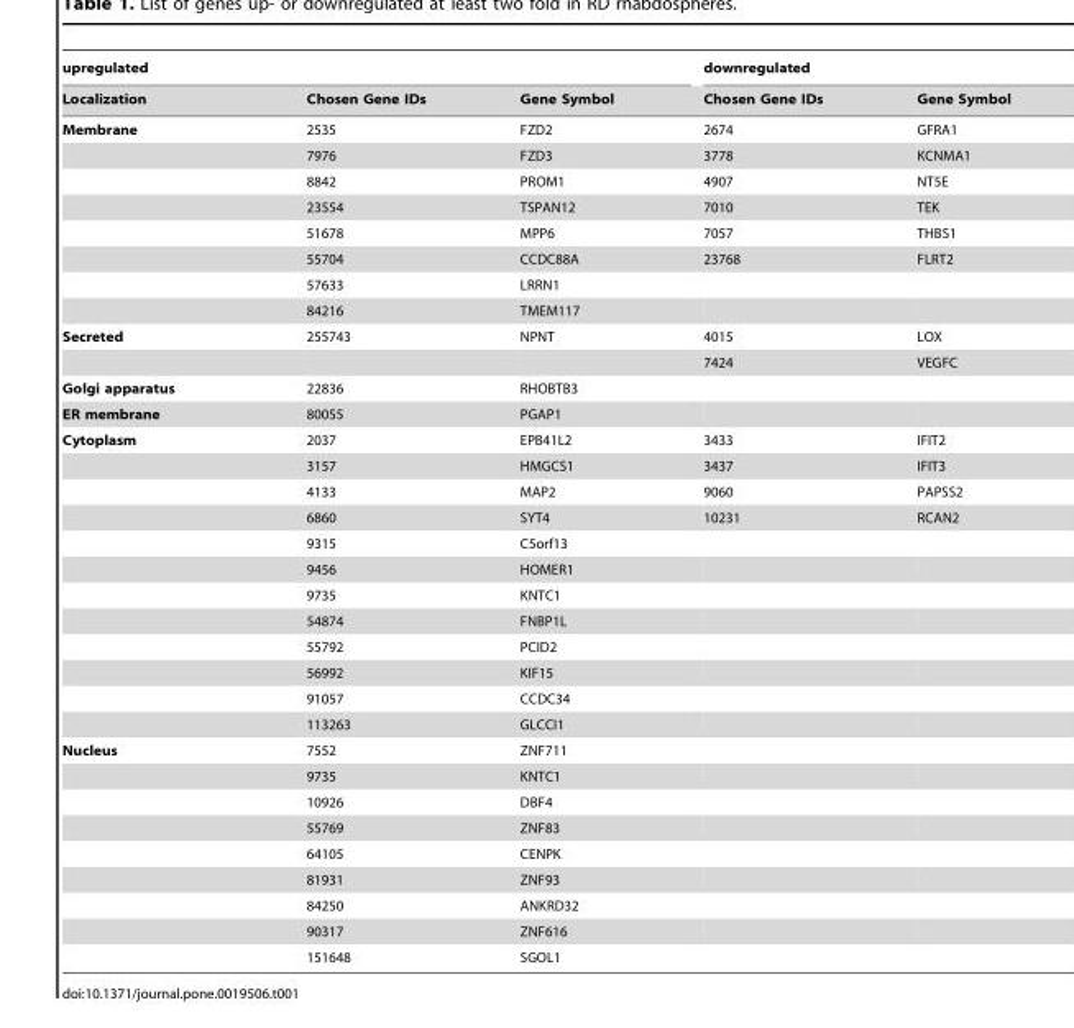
<table><thead><tr><td colspan="3">upregulated</td><td colspan="2">downregulated</td></tr><tr><td>Localization</td><td>Chosen Gene IDs</td><td>Gene Symbol</td><td>Chosen Gene IDs</td><td>Gene Symbol</td></tr></thead><tbody><tr><td rowspan="8">Membrane</td><td>2535</td><td>FZD2</td><td>2674</td><td>GFRA1</td></tr><tr><td>7976</td><td>FZD3</td><td>3778</td><td>KCNMA1</td></tr><tr><td>8842</td><td>PROM1</td><td>4907</td><td>NT5E</td></tr><tr><td>23554</td><td>TSPAN12</td><td>7010</td><td>TEK</td></tr><tr><td>51678</td><td>MPP6</td><td>7057</td><td>THBS1</td></tr><tr><td>55704</td><td>CCDC88A</td><td>23768</td><td>FLRT2</td></tr><tr><td>57633</td><td>LRRN1</td><td></td><td></td></tr><tr><td>84216</td><td>TMEM117</td><td></td><td></td></tr><tr><td rowspan="2">Secreted</td><td>255743</td><td>NPNT</td><td>4015</td><td>LOX</td></tr><tr><td></td><td></td><td>7424</td><td>VEGFC</td></tr><tr><td>Golgi apparatus</td><td>22836</td><td>RHOBTB3</td><td></td><td></td></tr><tr><td>ER membrane</td><td>80055</td><td>PGAP1</td><td></td><td></td></tr><tr><td rowspan="12">Cytoplasm</td><td>2037</td><td>EPB41L2</td><td>3433</td><td>IFIT2</td></tr><tr><td>3157</td><td>HMGCS1</td><td>3437</td><td>IFIT3</td></tr><tr><td>4133</td><td>MAP2</td><td>9060</td><td>PAPSS2</td></tr><tr><td>6860</td><td>SYT4</td><td>10231</td><td>RCAN2</td></tr><tr><td>9315</td><td>C5orf13</td><td></td><td></td></tr><tr><td>9456</td><td>HOMER1</td><td></td><td></td></tr><tr><td>9735</td><td>KNTC1</td><td></td><td></td></tr><tr><td>54874</td><td>FNBP1L</td><td></td><td></td></tr><tr><td>55792</td><td>PCID2</td><td></td><td></td></tr><tr><td>56992</td><td>KIF15</td><td></td><td></td></tr><tr><td>91057</td><td>CCDC34</td><td></td><td></td></tr><tr><td>113263</td><td>GLCCI1</td><td></td><td></td></tr><tr><td rowspan="9">Nucleus</td><td>7552</td><td>ZNF711</td><td></td><td></td></tr><tr><td>9735</td><td>KNTC1</td><td></td><td></td></tr><tr><td>10926</td><td>DBF4</td><td></td><td></td></tr><tr><td>55769</td><td>ZNF83</td><td></td><td></td></tr><tr><td>64105</td><td>CENPK</td><td></td><td></td></tr><tr><td>81931</td><td>ZNF93</td><td></td><td></td></tr><tr><td>84250</td><td>ANKRD32</td><td></td><td></td></tr><tr><td>90317</td><td>ZNF616</td><td></td><td></td></tr><tr><td>151648</td><td>SGOL1</td><td></td><td></td></tr></tbody></table>